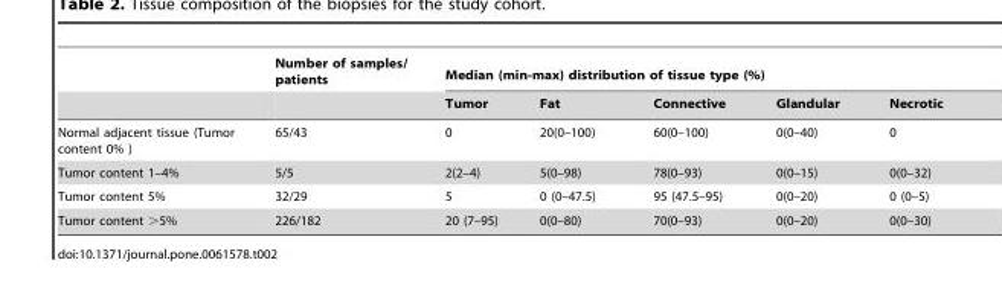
<table><thead><tr><td rowspan="2"></td><td rowspan="2">Number of samples/ patients</td><td colspan="5">Median (min-max) distribution of tissue type (%)</td></tr><tr><td>Tumor</td><td>Fat</td><td>Connective</td><td>Glandular</td><td>Necrotic</td></tr></thead><tbody><tr><td>Normal adjacent tissue (Tumor content 0% )</td><td>65/43</td><td>0</td><td>20(0–100)</td><td>60(0–100)</td><td>0(0–40)</td><td>0</td></tr><tr><td>Tumor content 1–4%</td><td>5/5</td><td>2(2–4)</td><td>5(0–98)</td><td>78(0–93)</td><td>0(0–15)</td><td>0(0–32)</td></tr><tr><td>Tumor content 5%</td><td>32/29</td><td>5</td><td>0 (0–47.5)</td><td>95 (47.5–95)</td><td>0(0–20)</td><td>0 (0–5)</td></tr><tr><td>Tumor content &gt;5%</td><td>226/182</td><td>20 (7–95)</td><td>0(0–80)</td><td>70(0–93)</td><td>0(0–20)</td><td>0(0–30)</td></tr></tbody></table>